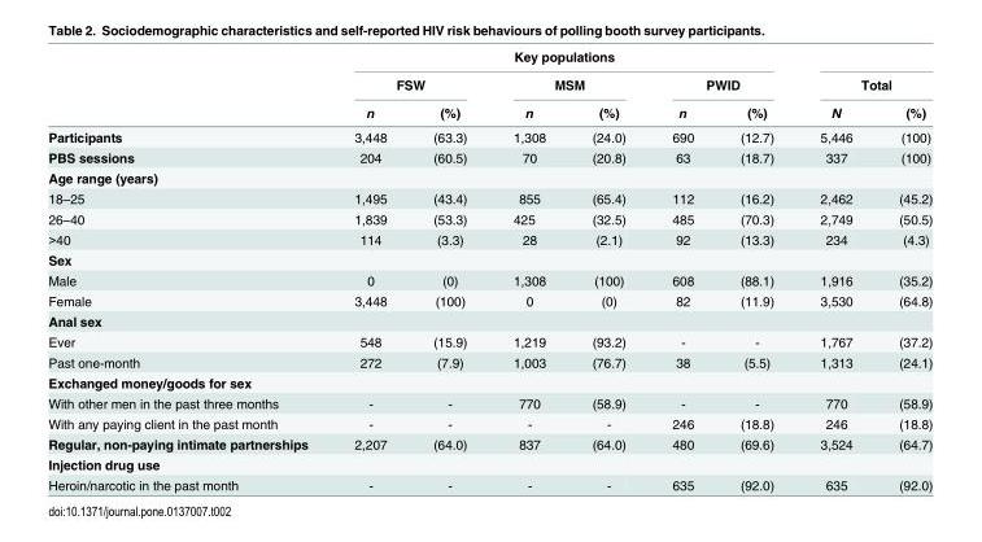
<table><thead><tr><td rowspan="3"></td><td colspan="6">Key populations</td><td></td><td></td></tr><tr><td colspan="2">FSW</td><td colspan="2">MSM</td><td colspan="2">PWID</td><td colspan="2">Total</td></tr><tr><td>n</td><td>(%)</td><td>n</td><td>(%)</td><td>n</td><td>(%)</td><td>N</td><td>(%)</td></tr></thead><tbody><tr><td>Participants</td><td>3,448</td><td>(63.3)</td><td>1,308</td><td>(24.0)</td><td>690</td><td>(12.7)</td><td>5,446</td><td>(100)</td></tr><tr><td>PBS sessions</td><td>204</td><td>(60.5)</td><td>70</td><td>(20.8)</td><td>63</td><td>(18.7)</td><td>337</td><td>(100)</td></tr><tr><td colspan="9">Age range (years)</td></tr><tr><td>18–25</td><td>1,495</td><td>(43.4)</td><td>855</td><td>(65.4)</td><td>112</td><td>(16.2)</td><td>2,462</td><td>(45.2)</td></tr><tr><td>26–40</td><td>1,839</td><td>(53.3)</td><td>425</td><td>(32.5)</td><td>485</td><td>(70.3)</td><td>2,749</td><td>(50.5)</td></tr><tr><td>&gt;40</td><td>114</td><td>(3.3)</td><td>28</td><td>(2.1)</td><td>92</td><td>(13.3)</td><td>234</td><td>(4.3)</td></tr><tr><td colspan="9">Sex</td></tr><tr><td>Male</td><td>0</td><td>(0)</td><td>1,308</td><td>(100)</td><td>608</td><td>(88.1)</td><td>1,916</td><td>(35.2)</td></tr><tr><td>Female</td><td>3,448</td><td>(100)</td><td>0</td><td>(0)</td><td>82</td><td>(11.9)</td><td>3,530</td><td>(64.8)</td></tr><tr><td colspan="9">Anal sex</td></tr><tr><td>Ever</td><td>548</td><td>(15.9)</td><td>1,219</td><td>(93.2)</td><td>-</td><td>-</td><td>1,767</td><td>(37.2)</td></tr><tr><td>Past one-month</td><td>272</td><td>(7.9)</td><td>1,003</td><td>(76.7)</td><td>38</td><td>(5.5)</td><td>1,313</td><td>(24.1)</td></tr><tr><td colspan="9">Exchanged money/goods for sex</td></tr><tr><td>With other men in the past three months</td><td>-</td><td>-</td><td>770</td><td>(58.9)</td><td>-</td><td>-</td><td>770</td><td>(58.9)</td></tr><tr><td>With any paying client in the past month</td><td>-</td><td>-</td><td>-</td><td>-</td><td>246</td><td>(18.8)</td><td>246</td><td>(18.8)</td></tr><tr><td>Regular, non-paying intimate partnerships</td><td>2,207</td><td>(64.0)</td><td>837</td><td>(64.0)</td><td>480</td><td>(69.6)</td><td>3,524</td><td>(64.7)</td></tr><tr><td colspan="9">Injection drug use</td></tr><tr><td>Heroin/narcotic in the past month</td><td>-</td><td>-</td><td>-</td><td>-</td><td>635</td><td>(92.0)</td><td>635</td><td>(92.0)</td></tr></tbody></table>